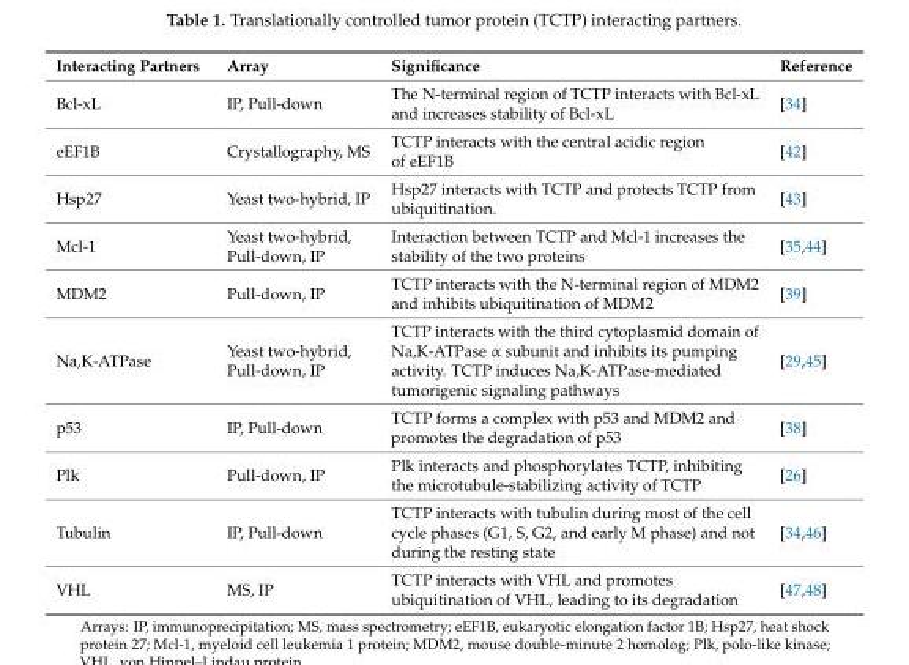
<table><thead><tr><td>Interacting Partners</td><td>Array</td><td>Significance</td><td>Reference</td></tr></thead><tbody><tr><td>Bcl-xL</td><td>IP, Pull-down</td><td>The N-terminal region of TCTP interacts with Bcl-xL and increases stability of Bcl-xL</td><td>[34]</td></tr><tr><td>eEF1B</td><td>Crystallography, MS</td><td>TCTP interacts with the central acidic region of eEF1B</td><td>[42]</td></tr><tr><td>Hsp27</td><td>Yeast two-hybrid, IP</td><td>Hsp27 interacts with TCTP and protects TCTP from ubiquitination.</td><td>[43]</td></tr><tr><td>Mcl-1</td><td>Yeast two-hybrid, Pull-down, IP</td><td>Interaction between TCTP and Mcl-1 increases the stability of the two proteins</td><td>[35,44]</td></tr><tr><td>MDM2</td><td>Pull-down, IP</td><td>TCTP interacts with the N-terminal region of MDM2 and inhibits ubiquitination of MDM2</td><td>[39]</td></tr><tr><td>Na,K-ATPase</td><td>Yeast two-hybrid, Pull-down, IP</td><td>TCTP interacts with the third cytoplasmid domain of Na,K-ATPase α subunit and inhibits its pumping activity. TCTP induces Na,K-ATPase-mediated tumorigenic signaling pathways</td><td>[29,45]</td></tr><tr><td>p53</td><td>IP, Pull-down</td><td>TCTP forms a complex with p53 and MDM2 and promotes the degradation of p53</td><td>[38]</td></tr><tr><td>Plk</td><td>Pull-down, IP</td><td>Plk interacts and phosphorylates TCTP, inhibiting the microtubule-stabilizing activity of TCTP</td><td>[26]</td></tr><tr><td>Tubulin</td><td>IP, Pull-down</td><td>TCTP interacts with tubulin during most of the cell cycle phases (G1, S, G2, and early M phase) and not during the resting state</td><td>[34,46]</td></tr><tr><td>VHL</td><td>MS, IP</td><td>TCTP interacts with VHL and promotes ubiquitination of VHL, leading to its degradation</td><td>[47,48]</td></tr></tbody></table>